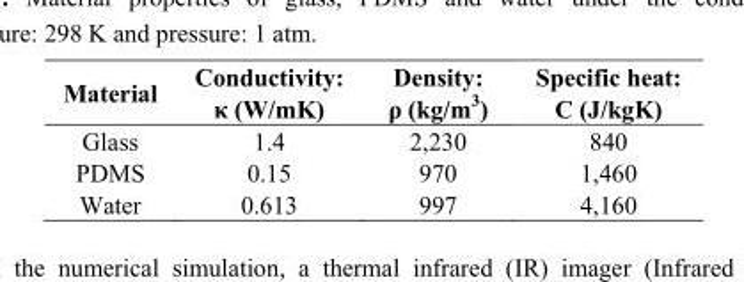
<table><thead><tr><td>Material</td><td>Conductivity: κ (W/mK)</td><td>Density: ρ (kg/m<sup>3</sup>)</td><td>Specific heat: C (J/kgK)</td></tr></thead><tbody><tr><td>Glass</td><td>1.4</td><td>2,230</td><td>840</td></tr><tr><td>PDMS</td><td>0.15</td><td>970</td><td>1,460</td></tr><tr><td>Water</td><td>0.613</td><td>997</td><td>4,160</td></tr></tbody></table>